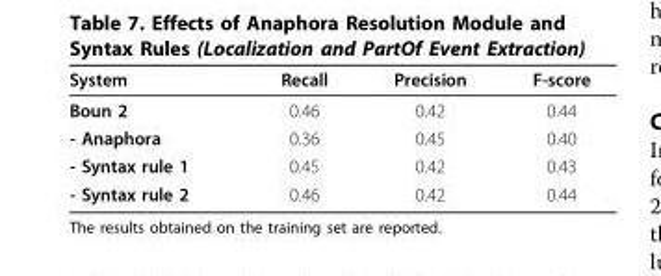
<table><thead><tr><td>System</td><td>Recall</td><td>Precision</td><td>F-score</td></tr></thead><tbody><tr><td>Boun 2</td><td>0.46</td><td>0.42</td><td>0.44</td></tr><tr><td>- Anaphora</td><td>0.36</td><td>0.45</td><td>0.40</td></tr><tr><td>- Syntax rule 1</td><td>0.45</td><td>0.42</td><td>0.43</td></tr><tr><td>- Syntax rule 2</td><td>0.46</td><td>0.42</td><td>0.44</td></tr></tbody></table>